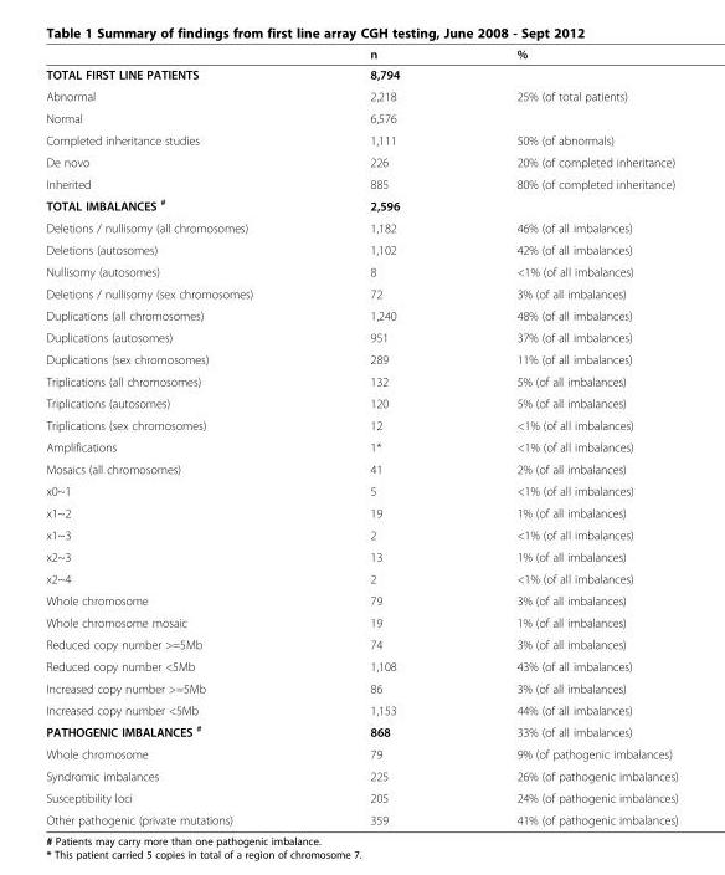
<table><thead><tr><td></td><td>n</td><td>%</td></tr></thead><tbody><tr><td>TOTAL FIRST LINE PATIENTS</td><td>8,794</td><td></td></tr><tr><td>Abnormal</td><td>2,218</td><td>25% (of total patients)</td></tr><tr><td>Normal</td><td>6,576</td><td></td></tr><tr><td>Completed inheritance studies</td><td>1,111</td><td>50% (of abnormals)</td></tr><tr><td>De novo</td><td>226</td><td>20% (of completed inheritance)</td></tr><tr><td>Inherited</td><td>885</td><td>80% (of completed inheritance)</td></tr><tr><td>TOTAL IMBALANCES <sup>#</sup></td><td>2,596</td><td></td></tr><tr><td>Deletions / nullisomy (all chromosomes)</td><td>1,182</td><td>46% (of all imbalances)</td></tr><tr><td>Deletions (autosomes)</td><td>1,102</td><td>42% (of all imbalances)</td></tr><tr><td>Nullisomy (autosomes)</td><td>8</td><td>&lt;1% (of all imbalances)</td></tr><tr><td>Deletions / nullisomy (sex chromosomes)</td><td>72</td><td>3% (of all imbalances)</td></tr><tr><td>Duplications (all chromosomes)</td><td>1,240</td><td>48% (of all imbalances)</td></tr><tr><td>Duplications (autosomes)</td><td>951</td><td>37% (of all imbalances)</td></tr><tr><td>Duplications (sex chromosomes)</td><td>289</td><td>11% (of all imbalances)</td></tr><tr><td>Triplications (all chromosomes)</td><td>132</td><td>5% (of all imbalances)</td></tr><tr><td>Triplications (autosomes)</td><td>120</td><td>5% (of all imbalances)</td></tr><tr><td>Triplications (sex chromosomes)</td><td>12</td><td>&lt;1% (of all imbalances)</td></tr><tr><td>Amplifications</td><td>1*</td><td>&lt;1% (of all imbalances)</td></tr><tr><td>Mosaics (all chromosomes)</td><td>41</td><td>2% (of all imbalances)</td></tr><tr><td>x0~1</td><td>5</td><td>&lt;1% (of all imbalances)</td></tr><tr><td>x1~2</td><td>19</td><td>1% (of all imbalances)</td></tr><tr><td>x1~3</td><td>2</td><td>&lt;1% (of all imbalances)</td></tr><tr><td>x2~3</td><td>13</td><td>1% (of all imbalances)</td></tr><tr><td>x2~4</td><td>2</td><td>&lt;1% (of all imbalances)</td></tr><tr><td>Whole chromosome</td><td>79</td><td>3% (of all imbalances)</td></tr><tr><td>Whole chromosome mosaic</td><td>19</td><td>1% (of all imbalances)</td></tr><tr><td>Reduced copy number &gt;=5Mb</td><td>74</td><td>3% (of all imbalances)</td></tr><tr><td>Reduced copy number &lt;5Mb</td><td>1,108</td><td>43% (of all imbalances)</td></tr><tr><td>Increased copy number &gt;=5Mb</td><td>86</td><td>3% (of all imbalances)</td></tr><tr><td>Increased copy number &lt;5Mb</td><td>1,153</td><td>44% (of all imbalances)</td></tr><tr><td>PATHOGENIC IMBALANCES <sup>#</sup></td><td>868</td><td>33% (of all imbalances)</td></tr><tr><td>Whole chromosome</td><td>79</td><td>9% (of pathogenic imbalances)</td></tr><tr><td>Syndromic imbalances</td><td>225</td><td>26% (of pathogenic imbalances)</td></tr><tr><td>Susceptibility loci</td><td>205</td><td>24% (of pathogenic imbalances)</td></tr><tr><td>Other pathogenic (private mutations)</td><td>359</td><td>41% (of pathogenic imbalances)</td></tr></tbody></table>